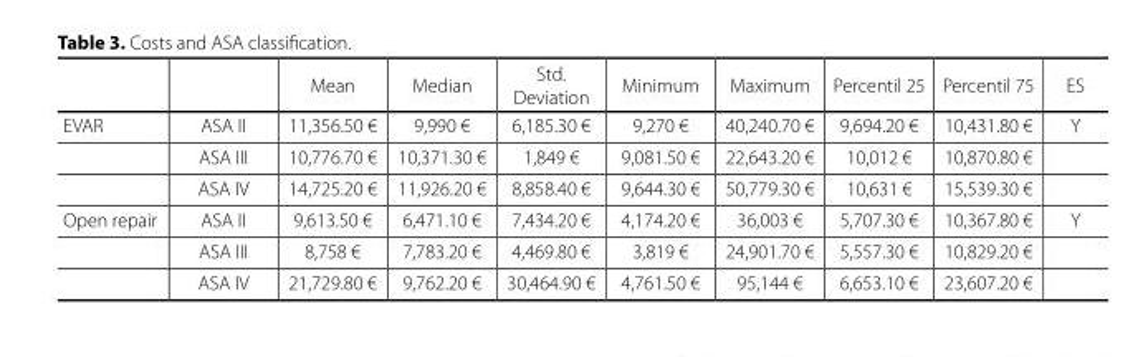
<table><thead><tr><td></td><td></td><td>Mean</td><td>Median</td><td>Std. Deviation</td><td>Minimum</td><td>Maximum</td><td>Percentil 25</td><td>Percentil 75</td><td>ES</td></tr></thead><tbody><tr><td rowspan="3">EVAR</td><td>ASA II</td><td>11,356.50 €</td><td>9,990 €</td><td>6,185.30 €</td><td>9,270 €</td><td>40,240.70 €</td><td>9,694.20 €</td><td>10,431.80 €</td><td>Y</td></tr><tr><td>ASA III</td><td>10,776.70 €</td><td>10,371.30 €</td><td>1,849 €</td><td>9,081.50 €</td><td>22,643.20 €</td><td>10,012 €</td><td>10,870.80 €</td><td></td></tr><tr><td>ASA IV</td><td>14,725.20 €</td><td>11,926.20 €</td><td>8,858.40 €</td><td>9,644.30 €</td><td>50,779.30 €</td><td>10,631 €</td><td>15,539.30 €</td><td></td></tr><tr><td rowspan="3">Open repair</td><td>ASA II</td><td>9,613.50 €</td><td>6,471.10 €</td><td>7,434.20 €</td><td>4,174.20 €</td><td>36,003 €</td><td>5,707.30 €</td><td>10,367.80 €</td><td>Y</td></tr><tr><td>ASA III</td><td>8,758 €</td><td>7,783.20 €</td><td>4,469.80 €</td><td>3,819 €</td><td>24,901.70 €</td><td>5,557.30 €</td><td>10,829.20 €</td><td></td></tr><tr><td>ASA IV</td><td>21,729.80 €</td><td>9,762.20 €</td><td>30,464.90 €</td><td>4,761.50 €</td><td>95,144 €</td><td>6,653.10 €</td><td>23,607.20 €</td><td></td></tr></tbody></table>